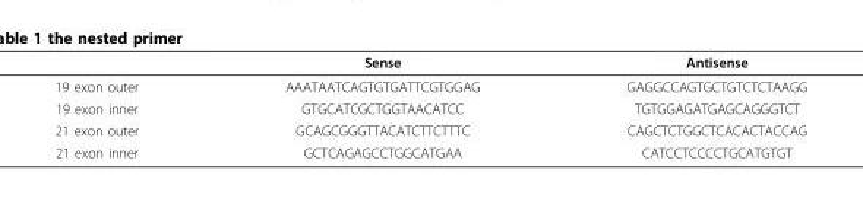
<table><thead><tr><td></td><td>Sense</td><td>Antisense</td></tr></thead><tbody><tr><td>19 exon outer</td><td>AAATAATCAGTGTGATTCGTGGAG</td><td>GAGGCCAGTGCTGTCTCTAAGG</td></tr><tr><td>19 exon inner</td><td>GTGCATCGCTGGTAACATCC</td><td>TGTGGAGATGAGCAGGGTCT</td></tr><tr><td>21 exon outer</td><td>GCAGCGGGTTACATCTTCTTTC</td><td>CAGCTCTGGCTCACACTACCAG</td></tr><tr><td>21 exon inner</td><td>GCTCAGAGCCTGGCATGAA</td><td>CATCCTCCCCTGCATGTGT</td></tr></tbody></table>